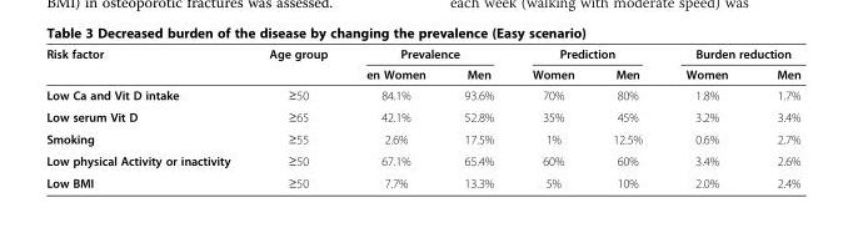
<table><thead><tr><td rowspan="2">Risk factor</td><td rowspan="2">Age group</td><td colspan="2">Prevalence</td><td colspan="2">Prediction</td><td colspan="2">Burden reduction</td></tr><tr><td>en Women</td><td>Men</td><td>Women</td><td>Men</td><td>Women</td><td>Men</td></tr></thead><tbody><tr><td>Low Ca and Vit D intake</td><td>≥50</td><td>84.1%</td><td>93.6%</td><td>70%</td><td>80%</td><td>1.8%</td><td>1.7%</td></tr><tr><td>Low serum Vit D</td><td>≥65</td><td>42.1%</td><td>52.8%</td><td>35%</td><td>45%</td><td>3.2%</td><td>3.4%</td></tr><tr><td>Smoking</td><td>≥55</td><td>2.6%</td><td>17.5%</td><td>1%</td><td>12.5%</td><td>0.6%</td><td>2.7%</td></tr><tr><td>Low physical Activity or inactivity</td><td>≥50</td><td>67.1%</td><td>65.4%</td><td>60%</td><td>60%</td><td>3.4%</td><td>2.6%</td></tr><tr><td>Low BMI</td><td>≥50</td><td>7.7%</td><td>13.3%</td><td>5%</td><td>10%</td><td>2.0%</td><td>2.4%</td></tr></tbody></table>